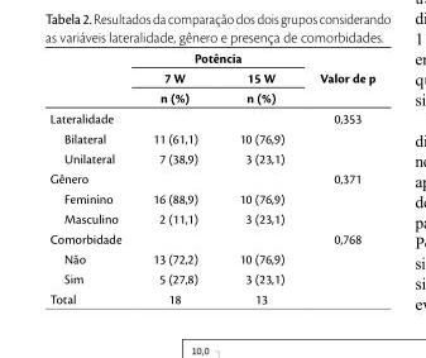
<table><thead><tr><td rowspan="3"></td><td colspan="2">Potência</td><td rowspan="3">Valor de p</td></tr><tr><td rowspan="2">7 W n (%)</td><td rowspan="2">15 W n (%)</td></tr><tr></tr></thead><tbody><tr><td>Lateralidade</td><td></td><td></td><td>0,353</td></tr><tr><td>Bilateral</td><td>11 (61,1)</td><td>10 (76,9)</td><td></td></tr><tr><td>Unilateral</td><td>7 (38,9)</td><td>3 (23,1)</td><td></td></tr><tr><td>Gênero</td><td></td><td></td><td>0,371</td></tr><tr><td>Feminino</td><td>16 (88,9)</td><td>10 (76,9)</td><td></td></tr><tr><td>Masculino</td><td>2 (11,1)</td><td>3 (23,1)</td><td></td></tr><tr><td>Comorbidade</td><td></td><td></td><td>0,768</td></tr><tr><td>Não</td><td>13 (72,2)</td><td>10 (76,9)</td><td></td></tr><tr><td>Sim</td><td>5 (27,8)</td><td>3 (23,1)</td><td></td></tr><tr><td>Total</td><td>18</td><td>13</td><td></td></tr></tbody></table>